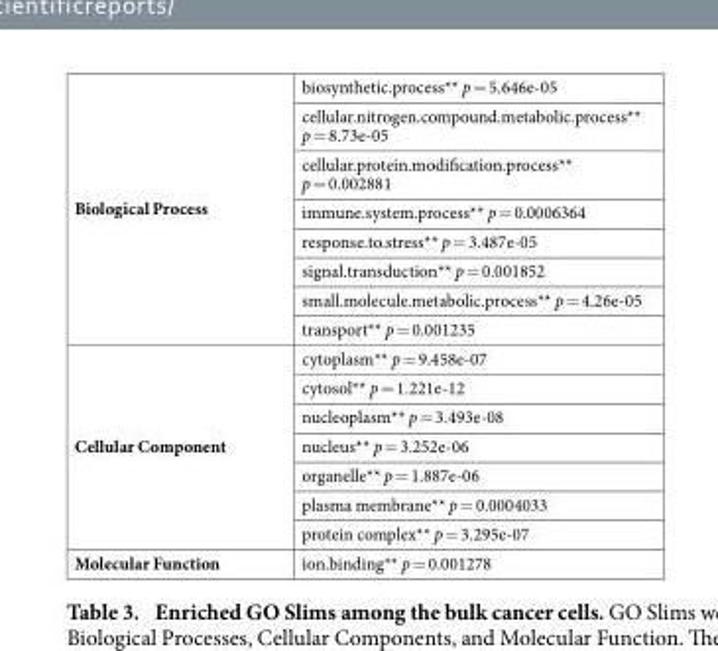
<table><tbody><tr><td rowspan="8">Biological Process</td><td>biosynthetic.process** p = 5.646e-05</td></tr><tr><td>cellular.nitrogen.compound.metabolic.process** p = 8.73e-05</td></tr><tr><td>cellular.protein.modification.process** p = 0.002881</td></tr><tr><td>immune.system.process** p = 0.0006364</td></tr><tr><td>response.to.stress** p = 3.487e-05</td></tr><tr><td>signal.transduction** p = 0.001852</td></tr><tr><td>small.molecule.metabolic.process** p = 4.26e-05</td></tr><tr><td>transport** p = 0.001235</td></tr><tr><td rowspan="7">Cellular Component</td><td>cytoplasm** p = 9.458e-07</td></tr><tr><td>cytosol** p = 1.221e-12</td></tr><tr><td>nucleoplasm** p = 3.493e-08</td></tr><tr><td>nucleus** p = 3.252e-06</td></tr><tr><td>organelle** p = 1.887e-06</td></tr><tr><td>plasma membrane** p = 0.0004033</td></tr><tr><td>protein complex** p = 3.295e-07</td></tr><tr><td>Molecular Function</td><td>ion.binding** p = 0.001278</td></tr></tbody></table>